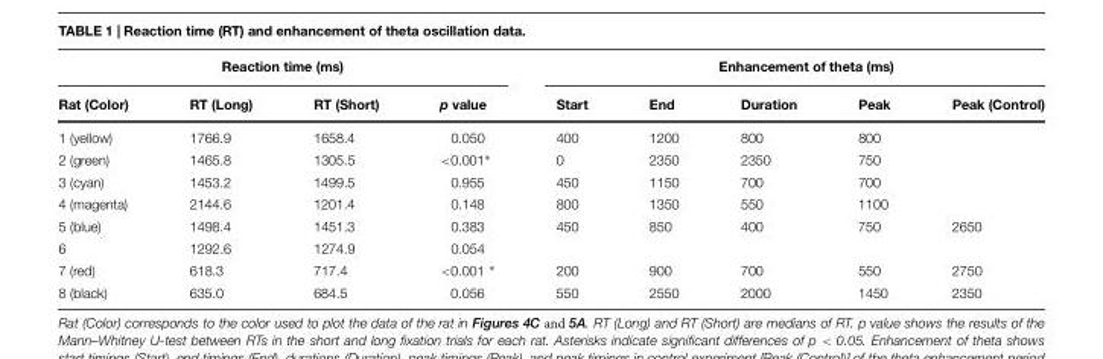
<table><thead><tr><td colspan="4">Reaction time (ms)</td><td colspan="5">Enhancement of theta (ms)</td></tr><tr><td>Rat (Color)</td><td>RT (Long)</td><td>RT (Short)</td><td>p value</td><td>Start</td><td>End</td><td>Duration</td><td>Peak</td><td>Peak (Control)</td></tr></thead><tbody><tr><td>1 (yellow)</td><td>1766.9</td><td>1658.4</td><td>0.050</td><td>400</td><td>1200</td><td>800</td><td>800</td><td></td></tr><tr><td>2 (green)</td><td>1465.8</td><td>1305.5</td><td>&lt;0.001∗</td><td>0</td><td>2350</td><td>2350</td><td>750</td><td></td></tr><tr><td>3 (cyan)</td><td>1453.2</td><td>1499.5</td><td>0.955</td><td>450</td><td>1150</td><td>700</td><td>700</td><td></td></tr><tr><td>4 (magenta)</td><td>2144.6</td><td>1201.4</td><td>0.148</td><td>800</td><td>1350</td><td>550</td><td>1100</td><td></td></tr><tr><td>5 (blue)</td><td>1498.4</td><td>1451.3</td><td>0.383</td><td>450</td><td>850</td><td>400</td><td>750</td><td>2650</td></tr><tr><td>6</td><td>1292.6</td><td>1274.9</td><td>0.054</td><td></td><td></td><td></td><td></td><td></td></tr><tr><td>7 (red)</td><td>618.3</td><td>717.4</td><td>&lt;0.001 ∗</td><td>200</td><td>900</td><td>700</td><td>550</td><td>2750</td></tr><tr><td>8 (black)</td><td>635.0</td><td>684.5</td><td>0.056</td><td>550</td><td>2550</td><td>2000</td><td>1450</td><td>2350</td></tr></tbody></table>